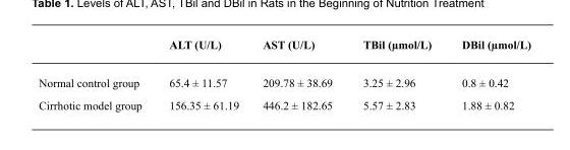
<table><thead><tr><td></td><td>ALT (U/L)</td><td>AST (U/L)</td><td>TBil (µmol/L)</td><td>DBil (µmol/L)</td></tr></thead><tbody><tr><td>Normal control group</td><td>65.4 ± 11.57</td><td>209.78 ± 38.69</td><td>3.25 ± 2.96</td><td>0.8 ± 0.42</td></tr><tr><td>Cirrhotic model group</td><td>156.35 ± 61.19</td><td>446.2 ± 182.65</td><td>5.57 ± 2.83</td><td>1.88 ± 0.82</td></tr></tbody></table>